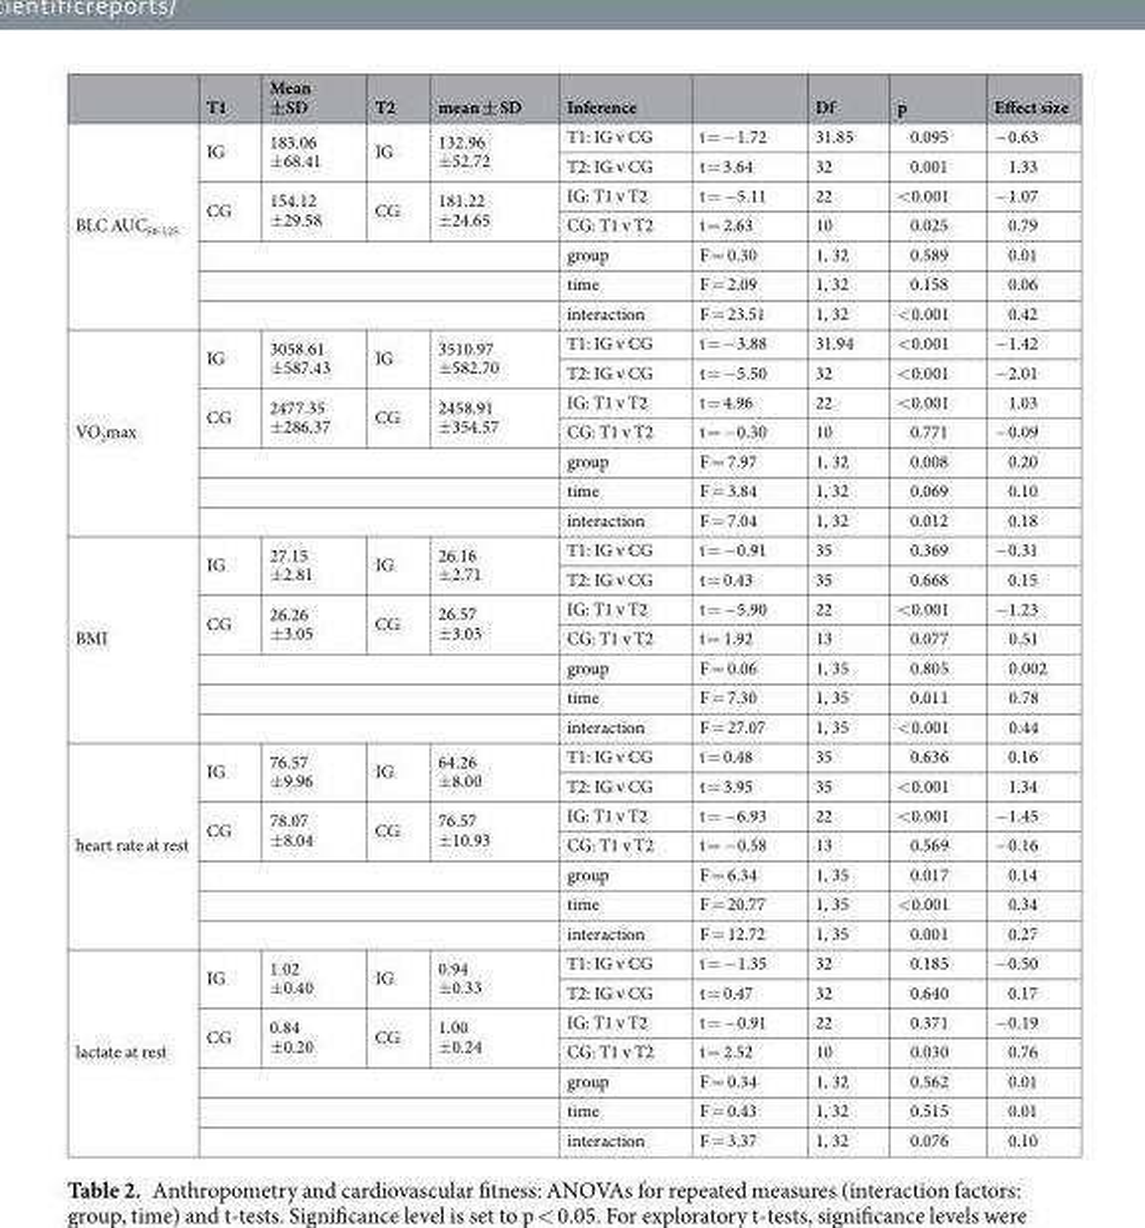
<table><thead><tr><td></td><td>T1</td><td>Mean ±SD</td><td>T2</td><td>mean ± SD</td><td>Inference</td><td></td><td>Df</td><td>p</td><td>Effect size</td></tr></thead><tbody><tr><td rowspan="7">BLC AUC<sub>50-125</sub></td><td rowspan="2">IG</td><td rowspan="2">183.06 ±68.41</td><td rowspan="2">IG</td><td rowspan="2">132.96 ±52.72</td><td>T1: IG v CG</td><td>t = −1.72</td><td>31.85</td><td>0.095</td><td>−0.63</td></tr><tr><td>T2: IG v CG</td><td>t = 3.64</td><td>32</td><td>0.001</td><td>1.33</td></tr><tr><td rowspan="2">CG</td><td rowspan="2">154.12 ±29.58</td><td rowspan="2">CG</td><td rowspan="2">181.22 ±24.65</td><td>IG: T1 v T2</td><td>t = −5.11</td><td>22</td><td>&lt;0.001</td><td>−1.07</td></tr><tr><td>CG: T1 v T2</td><td>t = 2.63</td><td>10</td><td>0.025</td><td>0.79</td></tr><tr><td colspan="4"></td><td>group</td><td>F = 0.30</td><td>1, 32</td><td>0.589</td><td>0.01</td></tr><tr><td colspan="4"></td><td>time</td><td>F = 2.09</td><td>1, 32</td><td>0.158</td><td>0.06</td></tr><tr><td colspan="4"></td><td>interaction</td><td>F = 23.51</td><td>1, 32</td><td>&lt;0.001</td><td>0.42</td></tr><tr><td rowspan="7">VO<sub>2</sub>max</td><td rowspan="2">IG</td><td rowspan="2">3058.61 ±587.43</td><td rowspan="2">IG</td><td rowspan="2">3510.97 ±582.70</td><td>T1: IG v CG</td><td>t = −3.88</td><td>31.94</td><td>&lt;0.001</td><td>−1.42</td></tr><tr><td>T2: IG v CG</td><td>t = −5.50</td><td>32</td><td>&lt;0.001</td><td>−2.01</td></tr><tr><td rowspan="2">CG</td><td rowspan="2">2477.35 ±286.37</td><td rowspan="2">CG</td><td rowspan="2">2458.91 ±354.57</td><td>IG: T1 v T2</td><td>t = 4.96</td><td>22</td><td>&lt;0.001</td><td>1.03</td></tr><tr><td>CG: T1 v T2</td><td>t = −0.30</td><td>10</td><td>0.771</td><td>−0.09</td></tr><tr><td colspan="4"></td><td>group</td><td>F = 7.97</td><td>1, 32</td><td>0.008</td><td>0.20</td></tr><tr><td colspan="4"></td><td>time</td><td>F = 3.84</td><td>1, 32</td><td>0.069</td><td>0.10</td></tr><tr><td colspan="4"></td><td>interaction</td><td>F = 7.04</td><td>1, 32</td><td>0.012</td><td>0.18</td></tr><tr><td rowspan="7">BMI</td><td rowspan="2">IG</td><td rowspan="2">27.15 ±2.81</td><td rowspan="2">IG</td><td rowspan="2">26.16 ±2.71</td><td>T1: IG v CG</td><td>t = −0.91</td><td>35</td><td>0.369</td><td>−0.31</td></tr><tr><td>T2: IG v CG</td><td>t = 0.43</td><td>35</td><td>0.668</td><td>0.15</td></tr><tr><td rowspan="2">CG</td><td rowspan="2">26.26 ±3.05</td><td rowspan="2">CG</td><td rowspan="2">26.57 ±3.03</td><td>IG: T1 v T2</td><td>t = −5.90</td><td>22</td><td>&lt;0.001</td><td>−1.23</td></tr><tr><td>CG: T1 v T2</td><td>t = 1.92</td><td>13</td><td>0.077</td><td>0.51</td></tr><tr><td colspan="4"></td><td>group</td><td>F = 0.06</td><td>1, 35</td><td>0.805</td><td>0.002</td></tr><tr><td colspan="4"></td><td>time</td><td>F = 7.30</td><td>1, 35</td><td>0.011</td><td>0.78</td></tr><tr><td colspan="4"></td><td>interaction</td><td>F = 27.07</td><td>1, 35</td><td>&lt;0.001</td><td>0.44</td></tr><tr><td rowspan="7">heart rate at rest</td><td rowspan="2">IG</td><td rowspan="2">76.57 ±9.96</td><td rowspan="2">IG</td><td rowspan="2">64.26 ±8.00</td><td>T1: IG v CG</td><td>t = 0.48</td><td>35</td><td>0.636</td><td>0.16</td></tr><tr><td>T2: IG v CG</td><td>t = 3.95</td><td>35</td><td>&lt;0.001</td><td>1.34</td></tr><tr><td rowspan="2">CG</td><td rowspan="2">78.07 ±8.04</td><td rowspan="2">CG</td><td rowspan="2">76.57 ±10.93</td><td>IG: T1 v T2</td><td>t = −6.93</td><td>22</td><td>&lt;0.001</td><td>−1.45</td></tr><tr><td>CG: T1 v T2</td><td>t = −0.58</td><td>13</td><td>0.569</td><td>−0.16</td></tr><tr><td colspan="4"></td><td>group</td><td>F = 6.34</td><td>1, 35</td><td>0.017</td><td>0.14</td></tr><tr><td colspan="4"></td><td>time</td><td>F = 20.77</td><td>1, 35</td><td>&lt;0.001</td><td>0.34</td></tr><tr><td colspan="4"></td><td>interaction</td><td>F = 12.72</td><td>1, 35</td><td>0.001</td><td>0.27</td></tr><tr><td rowspan="7">lactate at rest</td><td rowspan="2">IG</td><td rowspan="2">1.02 ±0.40</td><td rowspan="2">IG</td><td rowspan="2">0.94 ±0.33</td><td>T1: IG v CG</td><td>t = −1.35</td><td>32</td><td>0.185</td><td>−0.50</td></tr><tr><td>T2: IG v CG</td><td>t = 0.47</td><td>32</td><td>0.640</td><td>0.17</td></tr><tr><td rowspan="2">CG</td><td rowspan="2">0.84 ±0.20</td><td rowspan="2">CG</td><td rowspan="2">1.00 ±0.24</td><td>IG: T1 v T2</td><td>t = −0.91</td><td>22</td><td>0.371</td><td>−0.19</td></tr><tr><td>CG: T1 v T2</td><td>t = 2.52</td><td>10</td><td>0.030</td><td>0.76</td></tr><tr><td colspan="4"></td><td>group</td><td>F = 0.34</td><td>1, 32</td><td>0.562</td><td>0.01</td></tr><tr><td colspan="4"></td><td>time</td><td>F = 0.43</td><td>1, 32</td><td>0.515</td><td>0.01</td></tr><tr><td colspan="4"></td><td>interaction</td><td>F = 3.37</td><td>1, 32</td><td>0.076</td><td>0.10</td></tr></tbody></table>